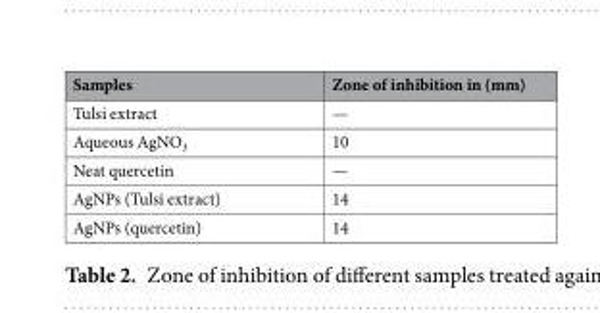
<table><thead><tr><td>Samples</td><td>Zone of inhibition in (mm)</td></tr></thead><tbody><tr><td>Tulsi extract</td><td>—</td></tr><tr><td>Aqueous AgNO<sub>3</sub></td><td>10</td></tr><tr><td>Neat quercetin</td><td>—</td></tr><tr><td>AgNPs (Tulsi extract)</td><td>14</td></tr><tr><td>AgNPs (quercetin)</td><td>14</td></tr></tbody></table>